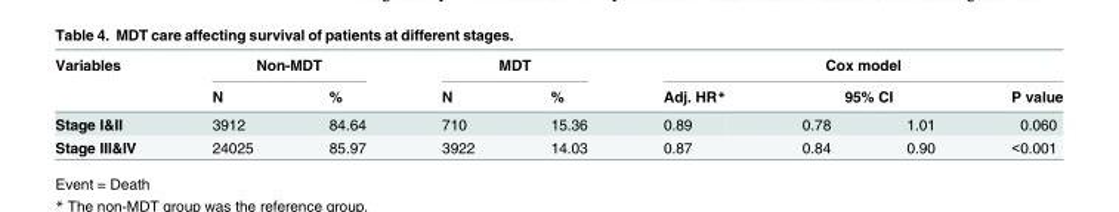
<table><thead><tr><td rowspan="3">Variables Stage I&amp;II</td><td colspan="2">Non-MDT</td><td colspan="2">MDT</td><td colspan="4">Cox model</td></tr><tr><td rowspan="2">N 3912</td><td rowspan="2">% 84.64</td><td rowspan="2">N 710</td><td rowspan="2">% 15.36</td><td rowspan="2">Adj. HR* 0.89</td><td colspan="2">95% CI</td><td rowspan="2">P value 0.060</td></tr><tr><td>0.78</td><td>1.01</td></tr></thead><tbody><tr><td>Stage III&amp;IV</td><td>24025</td><td>85.97</td><td>3922</td><td>14.03</td><td>0.87</td><td>0.84</td><td>0.90</td><td>&lt;0.001</td></tr></tbody></table>